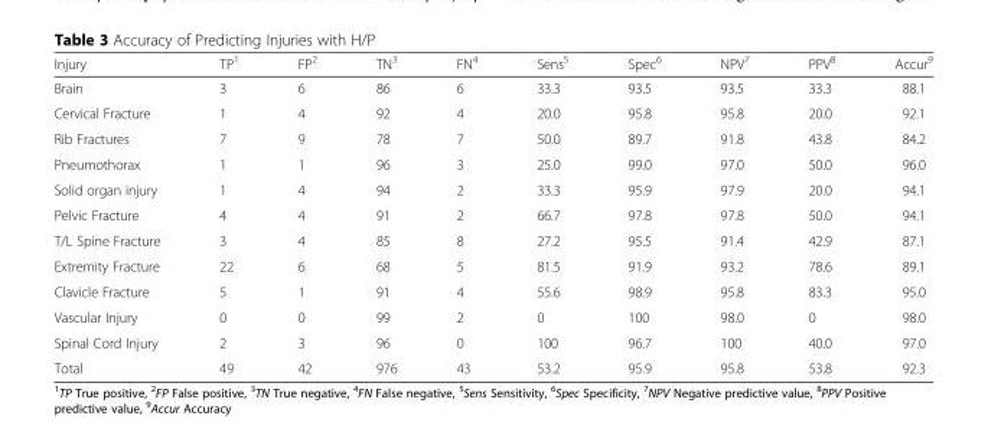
<table><thead><tr><td>Injury</td><td>TP<sup>1</sup></td><td>FP<sup>2</sup></td><td>TN<sup>3</sup></td><td>FN<sup>4</sup></td><td>Sens<sup>5</sup></td><td>Spec<sup>6</sup></td><td>NPV<sup>7</sup></td><td>PPV<sup>8</sup></td><td>Accur<sup>9</sup></td></tr></thead><tbody><tr><td>Brain</td><td>3</td><td>6</td><td>86</td><td>6</td><td>33.3</td><td>93.5</td><td>93.5</td><td>33.3</td><td>88.1</td></tr><tr><td>Cervical Fracture</td><td>1</td><td>4</td><td>92</td><td>4</td><td>20.0</td><td>95.8</td><td>95.8</td><td>20.0</td><td>92.1</td></tr><tr><td>Rib Fractures</td><td>7</td><td>9</td><td>78</td><td>7</td><td>50.0</td><td>89.7</td><td>91.8</td><td>43.8</td><td>84.2</td></tr><tr><td>Pneumothorax</td><td>1</td><td>1</td><td>96</td><td>3</td><td>25.0</td><td>99.0</td><td>97.0</td><td>50.0</td><td>96.0</td></tr><tr><td>Solid organ injury</td><td>1</td><td>4</td><td>94</td><td>2</td><td>33.3</td><td>95.9</td><td>97.9</td><td>20.0</td><td>94.1</td></tr><tr><td>Pelvic Fracture</td><td>4</td><td>4</td><td>91</td><td>2</td><td>66.7</td><td>97.8</td><td>97.8</td><td>50.0</td><td>94.1</td></tr><tr><td>T/L Spine Fracture</td><td>3</td><td>4</td><td>85</td><td>8</td><td>27.2</td><td>95.5</td><td>91.4</td><td>42.9</td><td>87.1</td></tr><tr><td>Extremity Fracture</td><td>22</td><td>6</td><td>68</td><td>5</td><td>81.5</td><td>91.9</td><td>93.2</td><td>78.6</td><td>89.1</td></tr><tr><td>Clavicle Fracture</td><td>5</td><td>1</td><td>91</td><td>4</td><td>55.6</td><td>98.9</td><td>95.8</td><td>83.3</td><td>95.0</td></tr><tr><td>Vascular Injury</td><td>0</td><td>0</td><td>99</td><td>2</td><td>0</td><td>100</td><td>98.0</td><td>0</td><td>98.0</td></tr><tr><td>Spinal Cord Injury</td><td>2</td><td>3</td><td>96</td><td>0</td><td>100</td><td>96.7</td><td>100</td><td>40.0</td><td>97.0</td></tr><tr><td>Total</td><td>49</td><td>42</td><td>976</td><td>43</td><td>53.2</td><td>95.9</td><td>95.8</td><td>53.8</td><td>92.3</td></tr></tbody></table>